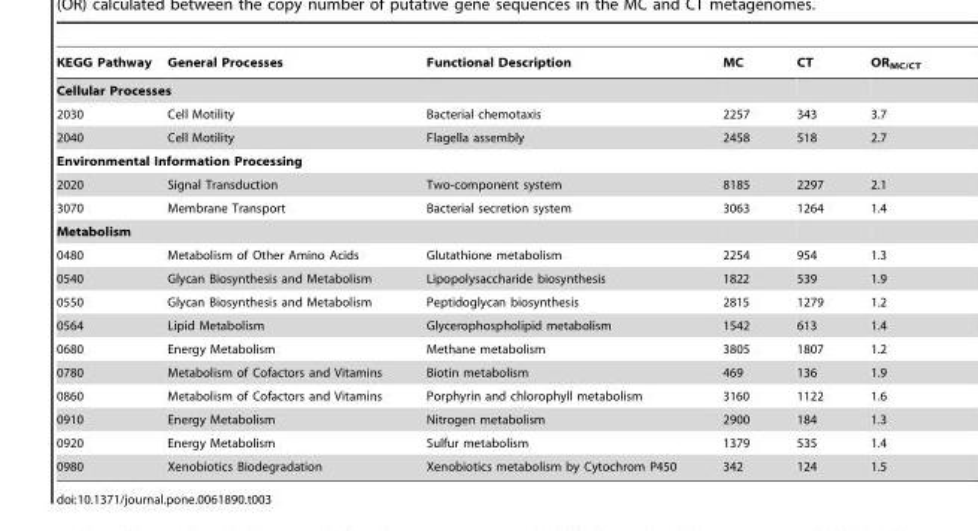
<table><thead><tr><td>KEGG Pathway</td><td>General Processes</td><td>Functional Description</td><td>MC</td><td>CT</td><td>OR<sub>MC/CT</sub></td></tr></thead><tbody><tr><td colspan="6">Cellular Processes</td></tr><tr><td>2030</td><td>Cell Motility</td><td>Bacterial chemotaxis</td><td>2257</td><td>343</td><td>3.7</td></tr><tr><td>2040</td><td>Cell Motility</td><td>Flagella assembly</td><td>2458</td><td>518</td><td>2.7</td></tr><tr><td colspan="6">Environmental Information Processing</td></tr><tr><td>2020</td><td>Signal Transduction</td><td>Two-component system</td><td>8185</td><td>2297</td><td>2.1</td></tr><tr><td>3070</td><td>Membrane Transport</td><td>Bacterial secretion system</td><td>3063</td><td>1264</td><td>1.4</td></tr><tr><td colspan="6">Metabolism</td></tr><tr><td>0480</td><td>Metabolism of Other Amino Acids</td><td>Glutathione metabolism</td><td>2254</td><td>954</td><td>1.3</td></tr><tr><td>0540</td><td>Glycan Biosynthesis and Metabolism</td><td>Lipopolysaccharide biosynthesis</td><td>1822</td><td>539</td><td>1.9</td></tr><tr><td>0550</td><td>Glycan Biosynthesis and Metabolism</td><td>Peptidoglycan biosynthesis</td><td>2815</td><td>1279</td><td>1.2</td></tr><tr><td>0564</td><td>Lipid Metabolism</td><td>Glycerophospholipid metabolism</td><td>1542</td><td>613</td><td>1.4</td></tr><tr><td>0680</td><td>Energy Metabolism</td><td>Methane metabolism</td><td>3805</td><td>1807</td><td>1.2</td></tr><tr><td>0780</td><td>Metabolism of Cofactors and Vitamins</td><td>Biotin metabolism</td><td>469</td><td>136</td><td>1.9</td></tr><tr><td>0860</td><td>Metabolism of Cofactors and Vitamins</td><td>Porphyrin and chlorophyll metabolism</td><td>3160</td><td>1122</td><td>1.6</td></tr><tr><td>0910</td><td>Energy Metabolism</td><td>Nitrogen metabolism</td><td>2900</td><td>184</td><td>1.3</td></tr><tr><td>0920</td><td>Energy Metabolism</td><td>Sulfur metabolism</td><td>1379</td><td>535</td><td>1.4</td></tr><tr><td>0980</td><td>Xenobiotics Biodegradation</td><td>Xenobiotics metabolism by Cytochrom P450</td><td>342</td><td>124</td><td>1.5</td></tr></tbody></table>